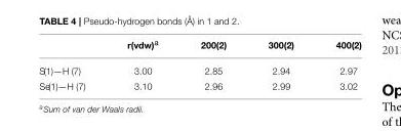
<table><thead><tr><td></td><td>r(vdw)<sup>a</sup></td><td>200(2)</td><td>300(2)</td><td>400(2)</td></tr></thead><tbody><tr><td>S(1)—H (7)</td><td>3.00</td><td>2.85</td><td>2.94</td><td>2.97</td></tr><tr><td>Se(1)—H (7)</td><td>3.10</td><td>2.96</td><td>2.99</td><td>3.02</td></tr></tbody></table>